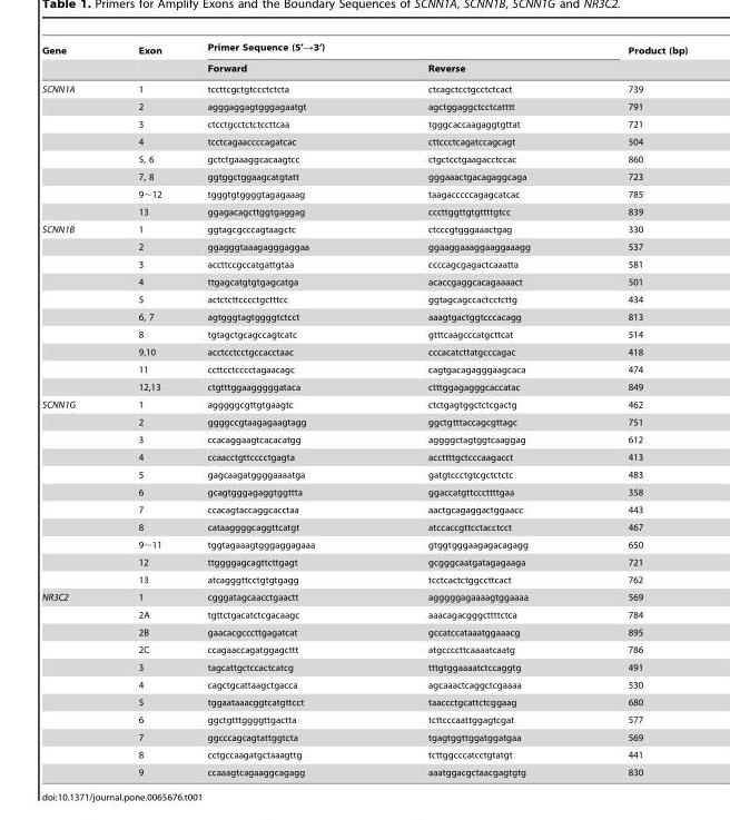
<table><thead><tr><td rowspan="2">Gene</td><td rowspan="2">Exon</td><td colspan="2">Primer Sequence (5’→3’)</td><td rowspan="2">Product (bp)</td></tr><tr><td>Forward</td><td>Reverse</td></tr></thead><tbody><tr><td rowspan="8">SCNN1A</td><td>1</td><td>tccttcgctgtccctctcta</td><td>ctcagctcctgcctctcact</td><td>739</td></tr><tr><td>2</td><td>agggaggagtgggagaatgt</td><td>agctggaggctcctcatttt</td><td>791</td></tr><tr><td>3</td><td>ctcctgcctctctccttcaa</td><td>tgggcaccaagaggtgttat</td><td>721</td></tr><tr><td>4</td><td>tcctcagaaccccagatcac</td><td>cttccctcagatccagcagt</td><td>504</td></tr><tr><td>5, 6</td><td>gctctgaaaggcacaagtcc</td><td>ctgctcctgaagacctccac</td><td>860</td></tr><tr><td>7, 8</td><td>ggtggctggaagcatgtatt</td><td>gggaaactgacagaggcaga</td><td>723</td></tr><tr><td>9∼12</td><td>tgggtgtggggtagagaaag</td><td>taagacccccagagcatcac</td><td>785</td></tr><tr><td>13</td><td>ggagacagcttggtgaggag</td><td>cccttggttgtgttttgtcc</td><td>839</td></tr><tr><td rowspan="10">SCNN1B</td><td>1</td><td>ggtagcgcccagtaagctc</td><td>ctcccgtgggaaactgag</td><td>330</td></tr><tr><td>2</td><td>ggagggtaaagagggaggaa</td><td>ggaaggaaaggaaggaaagg</td><td>537</td></tr><tr><td>3</td><td>accttccgccatgattgtaa</td><td>ccccagcgagactcaaatta</td><td>581</td></tr><tr><td>4</td><td>ttgagcatgtgtgagcatga</td><td>acaccgaggcacagaaaact</td><td>501</td></tr><tr><td>5</td><td>actctcttcccctgctttcc</td><td>ggtagcagccactcctcttg</td><td>434</td></tr><tr><td>6, 7</td><td>agtgggtagtggggtctcct</td><td>aaagtgactggtcccacagg</td><td>813</td></tr><tr><td>8</td><td>tgtagctgcagccagtcatc</td><td>gtttcaagcccatgcttcat</td><td>514</td></tr><tr><td>9,10</td><td>acctcctcctgccacctaac</td><td>cccacatcttatgcccagac</td><td>418</td></tr><tr><td>11</td><td>ccttcctcccctagaacagc</td><td>cagtgacagagggaagcaca</td><td>474</td></tr><tr><td>12,13</td><td>ctgtttggaagggggataca</td><td>ctttggagagggcaccatac</td><td>849</td></tr><tr><td rowspan="11">SCNN1G</td><td>1</td><td>agggggcgttgtgaagtc</td><td>ctctgagtggctctcgactg</td><td>462</td></tr><tr><td>2</td><td>ggggccgtaagagaagtagg</td><td>ggctgtttaccagcgttagc</td><td>751</td></tr><tr><td>3</td><td>ccacaggaagtcacacatgg</td><td>aggggctagtggtcaaggag</td><td>612</td></tr><tr><td>4</td><td>ccaacctgttcccctgagta</td><td>accttttgctcccaagacct</td><td>413</td></tr><tr><td>5</td><td>gagcaagatggggaaaatga</td><td>gatgtccctgtcgctctctc</td><td>483</td></tr><tr><td>6</td><td>gcagtgggagaggtggttta</td><td>ggaccatgttcccttttgaa</td><td>358</td></tr><tr><td>7</td><td>ccacagtaccaggcacctaa</td><td>aactgcagaggactggaacc</td><td>443</td></tr><tr><td>8</td><td>cataaggggcaggttcatgt</td><td>atccaccgttcctacctcct</td><td>467</td></tr><tr><td>9∼11</td><td>tggtagaaagtgggaggagaaa</td><td>gtggtgggaagagacagagg</td><td>650</td></tr><tr><td>12</td><td>ttggggagcagttcttgagt</td><td>gcgggcaatgatagagaaga</td><td>721</td></tr><tr><td>13</td><td>atcagggttcctgtgtgagg</td><td>tcctcactctggccttcact</td><td>762</td></tr><tr><td rowspan="11">NR3C2</td><td>1</td><td>cgggatagcaacctgaactt</td><td>agggggagaaaagtggaaaa</td><td>569</td></tr><tr><td>2A</td><td>tgttctgacatctcgacaagc</td><td>aaacagacgggcttttctca</td><td>784</td></tr><tr><td>2B</td><td>gaacacgcccttgagatcat</td><td>gccatccataaatggaaacg</td><td>895</td></tr><tr><td>2C</td><td>ccagaaccagatggagcttt</td><td>atgccccttcaaaatcaatg</td><td>786</td></tr><tr><td>3</td><td>tagcattgctccactcatcg</td><td>tttgtggaaaatctccaggtg</td><td>491</td></tr><tr><td>4</td><td>cagctgcattaagctgacca</td><td>agcaaactcaggctcgaaaa</td><td>530</td></tr><tr><td>5</td><td>tggaataaacggtcatgttcct</td><td>taaccctgcattctcggaag</td><td>680</td></tr><tr><td>6</td><td>ggctgtttggggttgactta</td><td>tcttcccaattggagtcgat</td><td>577</td></tr><tr><td>7</td><td>ggcccagcagtattggtcta</td><td>tgagtggttggatggatgaa</td><td>569</td></tr><tr><td>8</td><td>cctgccaagatgctaaagttg</td><td>tcttggcccatcctgtatgt</td><td>441</td></tr><tr><td>9</td><td>ccaaagtcagaaggcagagg</td><td>aaatggacgctaacgagtgtg</td><td>830</td></tr></tbody></table>